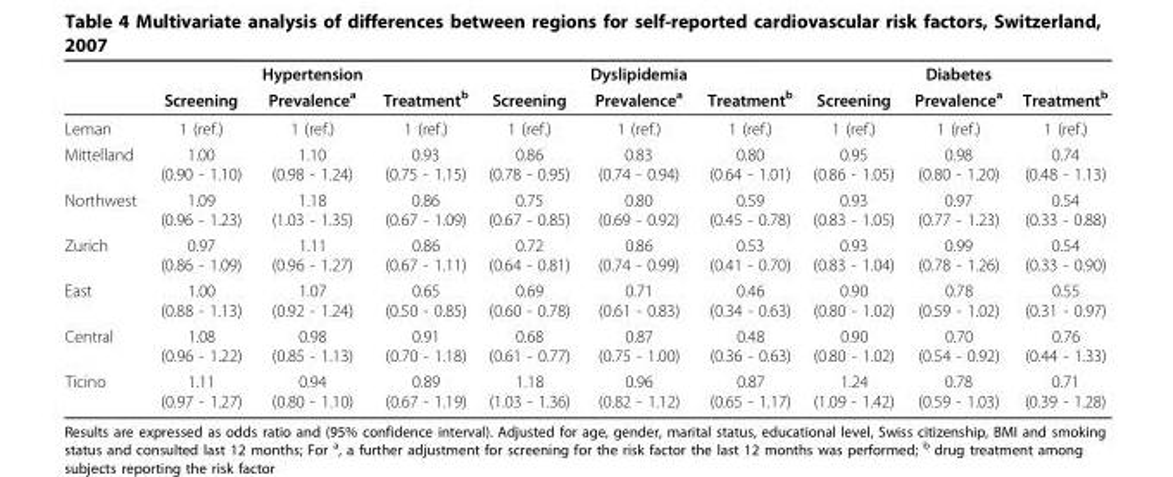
<table><thead><tr><td rowspan="2"></td><td rowspan="2">Screening</td><td rowspan="2">Hypertension Prevalence<sup>a</sup></td><td rowspan="2">Treatment<sup>b</sup></td><td rowspan="2">Screening</td><td rowspan="2">Dyslipidemia Prevalence<sup>a</sup></td><td rowspan="2">Treatment<sup>b</sup></td><td rowspan="2">Screening</td><td rowspan="2">Diabetes Prevalence<sup>a</sup></td><td rowspan="2">Treatment<sup>b</sup></td></tr><tr></tr></thead><tbody><tr><td>Leman</td><td>1 (ref.)</td><td>1 (ref.)</td><td>1 (ref.)</td><td>1 (ref.)</td><td>1 (ref.)</td><td>1 (ref.)</td><td>1 (ref.)</td><td>1 (ref.)</td><td>1 (ref.)</td></tr><tr><td>Mittelland</td><td>1.00 (0.90 - 1.10)</td><td>1.10 (0.98 - 1.24)</td><td>0.93 (0.75 - 1.15)</td><td>0.86 (0.78 - 0.95)</td><td>0.83 (0.74 - 0.94)</td><td>0.80 (0.64 - 1.01)</td><td>0.95 (0.86 - 1.05)</td><td>0.98 (0.80 - 1.20)</td><td>0.74 (0.48 - 1.13)</td></tr><tr><td>Northwest</td><td>1.09 (0.96 - 1.23)</td><td>1.18 (1.03 - 1.35)</td><td>0.86 (0.67 - 1.09)</td><td>0.75 (0.67 - 0.85)</td><td>0.80 (0.69 - 0.92)</td><td>0.59 (0.45 - 0.78)</td><td>0.93 (0.83 - 1.05)</td><td>0.97 (0.77 - 1.23)</td><td>0.54 (0.33 - 0.88)</td></tr><tr><td>Zurich</td><td>0.97 (0.86 - 1.09)</td><td>1.11 (0.96 - 1.27)</td><td>0.86 (0.67 - 1.11)</td><td>0.72 (0.64 - 0.81)</td><td>0.86 (0.74 - 0.99)</td><td>0.53 (0.41 - 0.70)</td><td>0.93 (0.83 - 1.04)</td><td>0.99 (0.78 - 1.26)</td><td>0.54 (0.33 - 0.90)</td></tr><tr><td>East</td><td>1.00 (0.88 - 1.13)</td><td>1.07 (0.92 - 1.24)</td><td>0.65 (0.50 - 0.85)</td><td>0.69 (0.60 - 0.78)</td><td>0.71 (0.61 - 0.83)</td><td>0.46 (0.34 - 0.63)</td><td>0.90 (0.80 - 1.02)</td><td>0.78 (0.59 - 1.02)</td><td>0.55 (0.31 - 0.97)</td></tr><tr><td>Central</td><td>1.08 (0.96 - 1.22)</td><td>0.98 (0.85 - 1.13)</td><td>0.91 (0.70 - 1.18)</td><td>0.68 (0.61 - 0.77)</td><td>0.87 (0.75 - 1.00)</td><td>0.48 (0.36 - 0.63)</td><td>0.90 (0.80 - 1.02)</td><td>0.70 (0.54 - 0.92)</td><td>0.76 (0.44 - 1.33)</td></tr><tr><td>Ticino</td><td>1.11 (0.97 - 1.27)</td><td>0.94 (0.80 - 1.10)</td><td>0.89 (0.67 - 1.19)</td><td>1.18 (1.03 - 1.36)</td><td>0.96 (0.82 - 1.12)</td><td>0.87 (0.65 - 1.17)</td><td>1.24 (1.09 - 1.42)</td><td>0.78 (0.59 - 1.03)</td><td>0.71 (0.39 - 1.28)</td></tr></tbody></table>